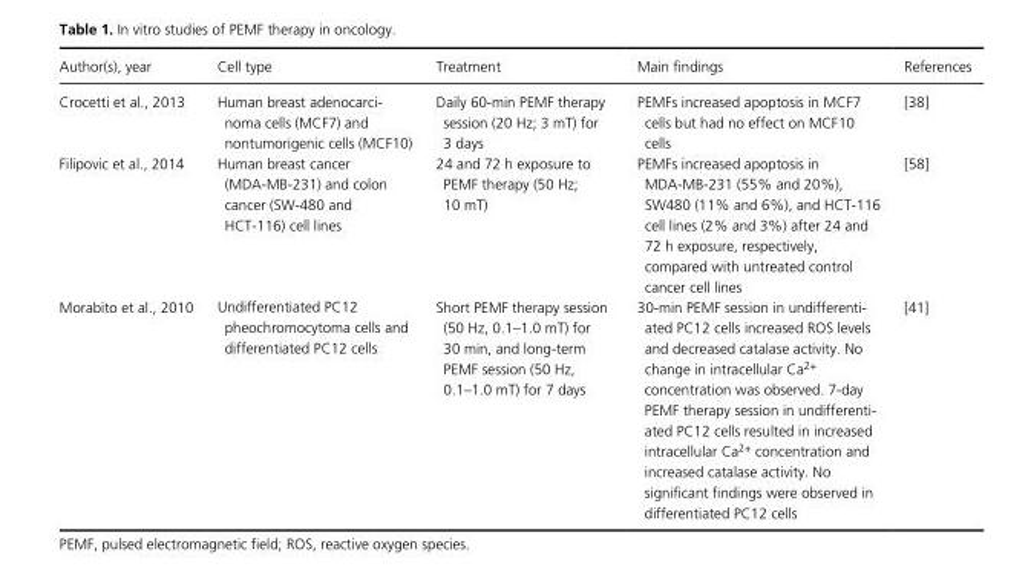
<table><thead><tr><td>Author(s), year</td><td>Cell type</td><td>Treatment</td><td>Main findings</td><td>References</td></tr></thead><tbody><tr><td>Crocetti et al., 2013</td><td>Human breast adenocarci- noma cells (MCF7) and nontumorigenic cells (MCF10)</td><td>Daily 60- min PEMF therapy session (20 Hz; 3 mT) for 3 days</td><td>PEMFs increased apoptosis in MCF7 cells but had no effect on MCF10 cells</td><td>[38]</td></tr><tr><td>Filipovic et al., 2014</td><td>Human breast cancer (MDA- MB- 231) and colon cancer (SW- 480 and HCT- 116) cell lines</td><td>24 and 72 h exposure to PEMF therapy (50 Hz; 10 mT)</td><td>PEMFs increased apoptosis in MDA- MB- 231 (55% and 20%), SW480 (11% and 6%), and HCT- 116 cell lines (2% and 3%) after 24 and 72 h exposure, respectively, compared with untreated control cancer cell lines</td><td>[58]</td></tr><tr><td>Morabito et al., 2010</td><td>Undifferentiated PC12 pheochromocytoma cells and differentiated PC12 cells</td><td>Short PEMF therapy session (50 Hz, 0.1–1.0 mT) for 30 min, and long- term PEMF session (50 Hz, 0.1–1.0 mT) for 7 days</td><td>30- min PEMF session in undifferenti- ated PC12 cells increased ROS levels and decreased catalase activity. No change in intracellular Ca2+ concentration was observed. 7- day PEMF therapy session in undifferenti- ated PC12 cells resulted in increased intracellular Ca2+ concentration and increased catalase activity. No significant findings were observed in differentiated PC12 cells</td><td>[41]</td></tr></tbody></table>